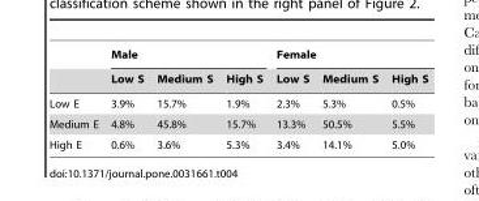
<table><thead><tr><td rowspan="2"></td><td colspan="3">Male</td><td colspan="3">Female</td></tr><tr><td>Low S</td><td>Medium S</td><td>High S</td><td>Low S</td><td>Medium S</td><td>High S</td></tr></thead><tbody><tr><td>Low E</td><td>3.9%</td><td>15.7%</td><td>1.9%</td><td>2.3%</td><td>5.3%</td><td>0.5%</td></tr><tr><td>Medium E</td><td>4.8%</td><td>45.8%</td><td>15.7%</td><td>13.3%</td><td>50.5%</td><td>5.5%</td></tr><tr><td>High E</td><td>0.6%</td><td>3.6%</td><td>5.3%</td><td>3.4%</td><td>14.1%</td><td>5.0%</td></tr></tbody></table>